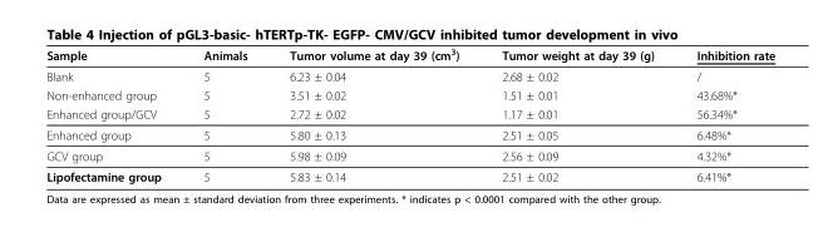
<table><thead><tr><td>Sample</td><td>Animals</td><td>Tumor volume at day 39 (cm<sup>3</sup>)</td><td>Tumor weight at day 39 (g)</td><td>Inhibition rate</td></tr></thead><tbody><tr><td>Blank</td><td>5</td><td>6.23 ± 0.04</td><td>2.68 ± 0.02</td><td>/</td></tr><tr><td>Non-enhanced group</td><td>5</td><td>3.51 ± 0.02</td><td>1.51 ± 0.01</td><td>43.68%*</td></tr><tr><td>Enhanced group/GCV</td><td>5</td><td>2.72 ± 0.02</td><td>1.17 ± 0.01</td><td>56.34%*</td></tr><tr><td>Enhanced group</td><td>5</td><td>5.80 ± 0.13</td><td>2.51 ± 0.05</td><td>6.48%*</td></tr><tr><td>GCV group</td><td>5</td><td>5.98 ± 0.09</td><td>2.56 ± 0.09</td><td>4.32%*</td></tr><tr><td>Lipofectamine group</td><td>5</td><td>5.83 ± 0.14</td><td>2.51 ± 0.02</td><td>6.41%*</td></tr></tbody></table>